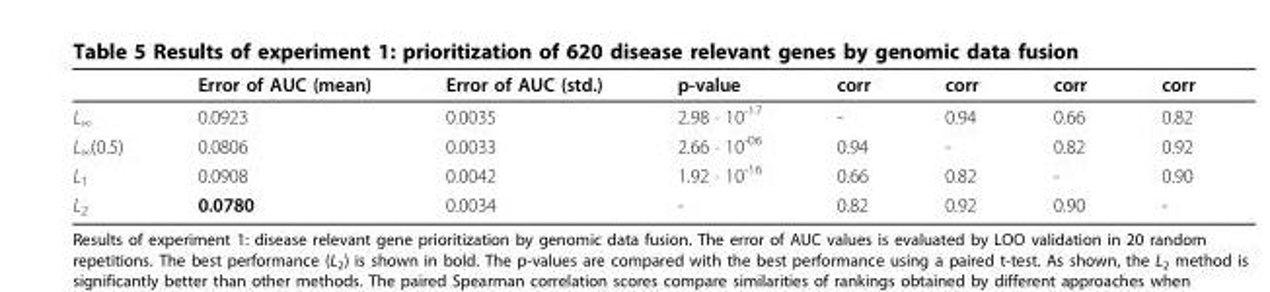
<table><thead><tr><td></td><td>Error of AUC (mean)</td><td>Error of AUC (std.)</td><td>p-value</td><td>corr</td><td>corr</td><td>corr</td><td>corr</td></tr></thead><tbody><tr><td>L<sub>∞</sub></td><td>0.0923</td><td>0.0035</td><td>2.98 · 10<sup>-17</sup></td><td>-</td><td>0.94</td><td>0.66</td><td>0.82</td></tr><tr><td>L<sub>∞</sub>(0.5)</td><td>0.0806</td><td>0.0033</td><td>2.66 · 10<sup>-06</sup></td><td>0.94</td><td>-</td><td>0.82</td><td>0.92</td></tr><tr><td>L<sub>1</sub></td><td>0.0908</td><td>0.0042</td><td>1.92 · 10<sup>-16</sup></td><td>0.66</td><td>0.82</td><td>-</td><td>0.90</td></tr><tr><td>L<sub>2</sub></td><td>0.0780</td><td>0.0034</td><td>-</td><td>0.82</td><td>0.92</td><td>0.90</td><td>-</td></tr></tbody></table>